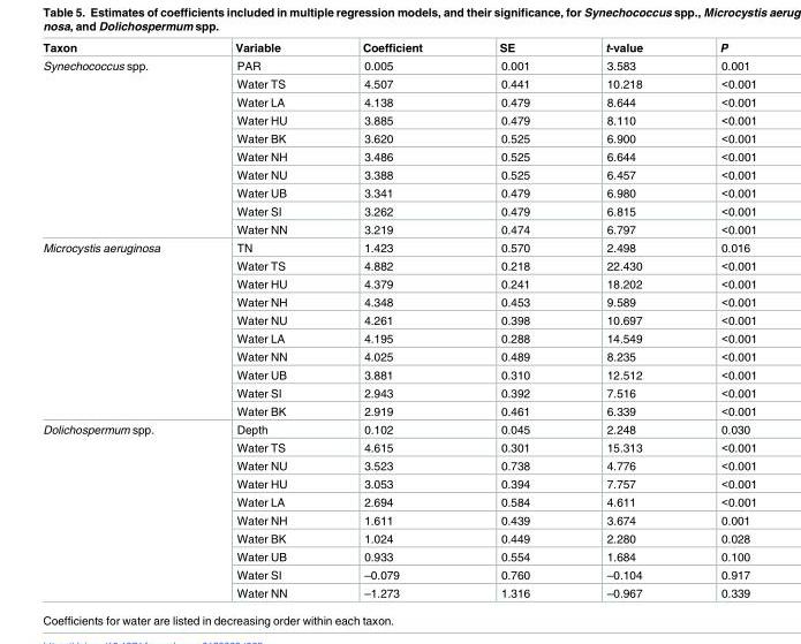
<table><thead><tr><td>Taxon</td><td>Variable</td><td>Coefficient</td><td>SE</td><td>t-value</td><td>P</td></tr></thead><tbody><tr><td rowspan="10">Synechococcus spp.</td><td>PAR</td><td>0.005</td><td>0.001</td><td>3.583</td><td>0.001</td></tr><tr><td>Water TS</td><td>4.507</td><td>0.441</td><td>10.218</td><td>&lt;0.001</td></tr><tr><td>Water LA</td><td>4.138</td><td>0.479</td><td>8.644</td><td>&lt;0.001</td></tr><tr><td>Water HU</td><td>3.885</td><td>0.479</td><td>8.110</td><td>&lt;0.001</td></tr><tr><td>Water BK</td><td>3.620</td><td>0.525</td><td>6.900</td><td>&lt;0.001</td></tr><tr><td>Water NH</td><td>3.486</td><td>0.525</td><td>6.644</td><td>&lt;0.001</td></tr><tr><td>Water NU</td><td>3.388</td><td>0.525</td><td>6.457</td><td>&lt;0.001</td></tr><tr><td>Water UB</td><td>3.341</td><td>0.479</td><td>6.980</td><td>&lt;0.001</td></tr><tr><td>Water SI</td><td>3.262</td><td>0.479</td><td>6.815</td><td>&lt;0.001</td></tr><tr><td>Water NN</td><td>3.219</td><td>0.474</td><td>6.797</td><td>&lt;0.001</td></tr><tr><td rowspan="10">Microcystis aeruginosa</td><td>TN</td><td>1.423</td><td>0.570</td><td>2.498</td><td>0.016</td></tr><tr><td>Water TS</td><td>4.882</td><td>0.218</td><td>22.430</td><td>&lt;0.001</td></tr><tr><td>Water HU</td><td>4.379</td><td>0.241</td><td>18.202</td><td>&lt;0.001</td></tr><tr><td>Water NH</td><td>4.348</td><td>0.453</td><td>9.589</td><td>&lt;0.001</td></tr><tr><td>Water NU</td><td>4.261</td><td>0.398</td><td>10.697</td><td>&lt;0.001</td></tr><tr><td>Water LA</td><td>4.195</td><td>0.288</td><td>14.549</td><td>&lt;0.001</td></tr><tr><td>Water NN</td><td>4.025</td><td>0.489</td><td>8.235</td><td>&lt;0.001</td></tr><tr><td>Water UB</td><td>3.881</td><td>0.310</td><td>12.512</td><td>&lt;0.001</td></tr><tr><td>Water SI</td><td>2.943</td><td>0.392</td><td>7.516</td><td>&lt;0.001</td></tr><tr><td>Water BK</td><td>2.919</td><td>0.461</td><td>6.339</td><td>&lt;0.001</td></tr><tr><td rowspan="10">Dolichospermum spp.</td><td>Depth</td><td>0.102</td><td>0.045</td><td>2.248</td><td>0.030</td></tr><tr><td>Water TS</td><td>4.615</td><td>0.301</td><td>15.313</td><td>&lt;0.001</td></tr><tr><td>Water NU</td><td>3.523</td><td>0.738</td><td>4.776</td><td>&lt;0.001</td></tr><tr><td>Water HU</td><td>3.053</td><td>0.394</td><td>7.757</td><td>&lt;0.001</td></tr><tr><td>Water LA</td><td>2.694</td><td>0.584</td><td>4.611</td><td>&lt;0.001</td></tr><tr><td>Water NH</td><td>1.611</td><td>0.439</td><td>3.674</td><td>0.001</td></tr><tr><td>Water BK</td><td>1.024</td><td>0.449</td><td>2.280</td><td>0.028</td></tr><tr><td>Water UB</td><td>0.933</td><td>0.554</td><td>1.684</td><td>0.100</td></tr><tr><td>Water SI</td><td>–0.079</td><td>0.760</td><td>–0.104</td><td>0.917</td></tr><tr><td>Water NN</td><td>–1.273</td><td>1.316</td><td>–0.967</td><td>0.339</td></tr></tbody></table>